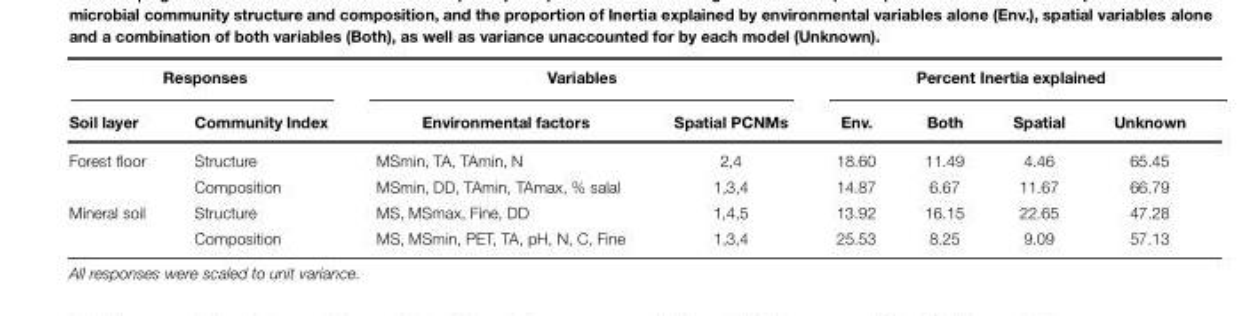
<table><thead><tr><td colspan="2">Responses</td><td colspan="2">Variables</td><td colspan="4">Percent Inertia explained</td></tr><tr><td>Soil layer</td><td>Community Index</td><td>Environmental factors</td><td>Spatial PCNMs</td><td>Env.</td><td>Both</td><td>Spatial</td><td>Unknown</td></tr></thead><tbody><tr><td rowspan="2">Forest floor</td><td>Structure</td><td>MSmin, TA, TAmin, N</td><td>2,4</td><td>18.60</td><td>11.49</td><td>4.46</td><td>65.45</td></tr><tr><td>Composition</td><td>MSmin, DD, TAmin, TAmax, % salal</td><td>1,3,4</td><td>14.87</td><td>6.67</td><td>11.67</td><td>66.79</td></tr><tr><td rowspan="2">Mineral soil</td><td>Structure</td><td>MS, MSmax, Fine, DD</td><td>1,4,5</td><td>13.92</td><td>16.15</td><td>22.65</td><td>47.28</td></tr><tr><td>Composition</td><td>MS, MSmin, PET, TA, pH, N, C, Fine</td><td>1,3,4</td><td>25.53</td><td>8.25</td><td>9.09</td><td>57.13</td></tr></tbody></table>